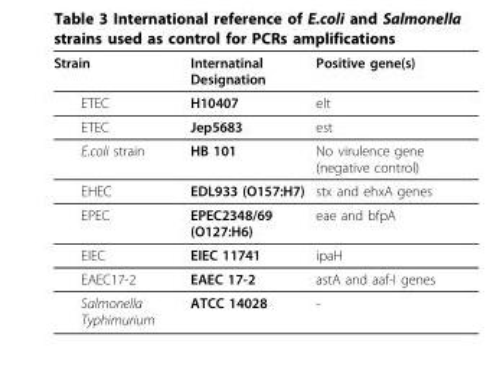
<table><thead><tr><td>Strain</td><td>Internatinal Designation</td><td>Positive gene(s)</td></tr></thead><tbody><tr><td>ETEC</td><td>H10407</td><td>elt</td></tr><tr><td>ETEC</td><td>Jep5683</td><td>est</td></tr><tr><td>E.coli strain</td><td>HB 101</td><td>No virulence gene (negative control)</td></tr><tr><td>EHEC</td><td>EDL933 (O157:H7)</td><td>stx and ehxA genes</td></tr><tr><td>EPEC</td><td>EPEC2348/69 (O127:H6)</td><td>eae and bfpA</td></tr><tr><td>EIEC</td><td>EIEC 11741</td><td>ipaH</td></tr><tr><td>EAEC17-2</td><td>EAEC 17-2</td><td>astA and aaf-I genes</td></tr><tr><td>Salmonella Typhimurium</td><td>ATCC 14028</td><td>-</td></tr></tbody></table>